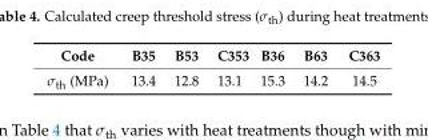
<table><thead><tr><td>Code</td><td>B35</td><td>B53</td><td>C353</td><td>B36</td><td>B63</td><td>C363</td></tr></thead><tbody><tr><td>σ<sub>th</sub> (MPa)</td><td>13.4</td><td>12.8</td><td>13.1</td><td>15.3</td><td>14.2</td><td>14.5</td></tr></tbody></table>